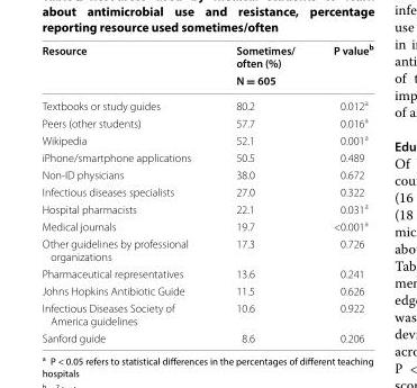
<table><thead><tr><td rowspan="2">Resource</td><td rowspan="2">Sometimes/ often (%) N = 605</td><td rowspan="2">P value<sup>b</sup></td></tr><tr></tr></thead><tbody><tr><td>Textbooks or study guides</td><td>80.2</td><td>0.012<sup>a</sup></td></tr><tr><td>Peers (other students)</td><td>57.7</td><td>0.016<sup>a</sup></td></tr><tr><td>Wikipedia</td><td>52.1</td><td>0.001<sup>a</sup></td></tr><tr><td>iPhone/smartphone applications</td><td>50.5</td><td>0.489</td></tr><tr><td>Non-ID physicians</td><td>38.0</td><td>0.672</td></tr><tr><td>Infectious diseases specialists</td><td>27.0</td><td>0.322</td></tr><tr><td>Hospital pharmacists</td><td>22.1</td><td>0.031<sup>a</sup></td></tr><tr><td>Medical journals</td><td>19.7</td><td>&lt;0.001<sup>a</sup></td></tr><tr><td>Other guidelines by professional organizations</td><td>17.3</td><td>0.726</td></tr><tr><td>Pharmaceutical representatives</td><td>13.6</td><td>0.241</td></tr><tr><td>Johns Hopkins Antibiotic Guide</td><td>11.5</td><td>0.626</td></tr><tr><td>Infectious Diseases Society of America guidelines</td><td>10.6</td><td>0.922</td></tr><tr><td>Sanford guide</td><td>8.6</td><td>0.206</td></tr></tbody></table>